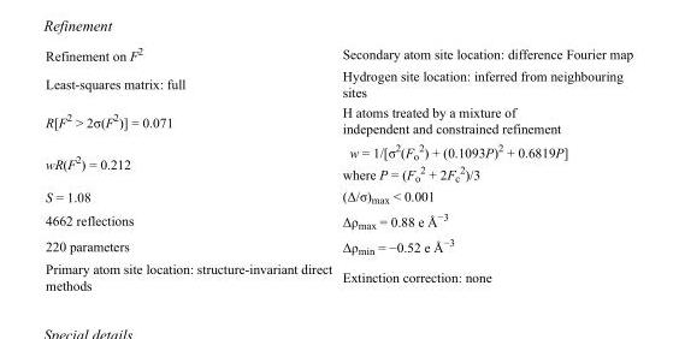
<table><tbody><tr><td>Refinement on F<sup>2</sup></td><td>Secondary atom site location: difference Fourier map</td></tr><tr><td>Least-squares matrix: full</td><td>Hydrogen site location: inferred from neighbouring sites</td></tr><tr><td>R[F<sup>2</sup> &gt; 2σ(F<sup>2</sup>)] = 0.071</td><td>H atoms treated by a mixture of independent and constrained refinement</td></tr><tr><td>wR(F<sup>2</sup>) = 0.212</td><td>w = 1/[σ<sup>2</sup>(F<sub>o</sub> <sup>2</sup>) + (0.1093P)<sup>2</sup> + 0.6819P] where P = (F<sub>o</sub> <sup>2</sup> + 2F<sub>c</sub> <sup>2</sup>)/3</td></tr><tr><td>S = 1.08</td><td>(Δ/σ)<sub>max</sub> &lt; 0.001</td></tr><tr><td>4662 reflections</td><td>Δρ<sub>max</sub> = 0.88 e Å<sup>−3</sup></td></tr><tr><td>220 parameters</td><td>Δρ<sub>min</sub> = −0.52 e Å<sup>−3</sup></td></tr><tr><td>Primary atom site location: structure-invariant direct methods</td><td>Extinction correction: none</td></tr></tbody></table>